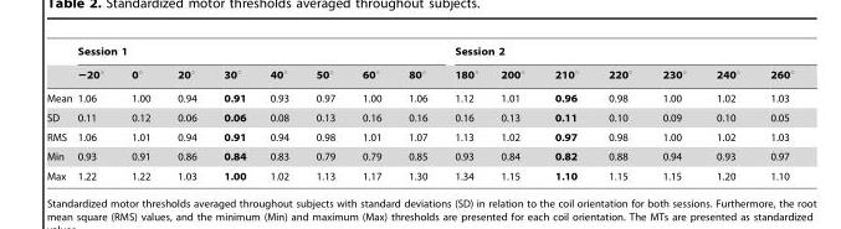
<table><thead><tr><td rowspan="2"></td><td colspan="8">Session 1</td><td colspan="7">Session 2</td></tr><tr><td>−20°</td><td>0°</td><td>20°</td><td>30°</td><td>40°</td><td>50°</td><td>60°</td><td>80°</td><td>180°</td><td>200°</td><td>210°</td><td>220°</td><td>230°</td><td>240°</td><td>260°</td></tr></thead><tbody><tr><td>Mean</td><td>1.06</td><td>1.00</td><td>0.94</td><td>0.91</td><td>0.93</td><td>0.97</td><td>1.00</td><td>1.06</td><td>1.12</td><td>1.01</td><td>0.96</td><td>0.98</td><td>1.00</td><td>1.02</td><td>1.03</td></tr><tr><td>SD</td><td>0.11</td><td>0.12</td><td>0.06</td><td>0.06</td><td>0.08</td><td>0.13</td><td>0.16</td><td>0.16</td><td>0.16</td><td>0.13</td><td>0.11</td><td>0.10</td><td>0.09</td><td>0.10</td><td>0.05</td></tr><tr><td>RMS</td><td>1.06</td><td>1.01</td><td>0.94</td><td>0.91</td><td>0.94</td><td>0.98</td><td>1.01</td><td>1.07</td><td>1.13</td><td>1.02</td><td>0.97</td><td>0.98</td><td>1.00</td><td>1.02</td><td>1.03</td></tr><tr><td>Min</td><td>0.93</td><td>0.91</td><td>0.86</td><td>0.84</td><td>0.83</td><td>0.79</td><td>0.79</td><td>0.85</td><td>0.93</td><td>0.84</td><td>0.82</td><td>0.88</td><td>0.94</td><td>0.93</td><td>0.97</td></tr><tr><td>Max</td><td>1.22</td><td>1.22</td><td>1.03</td><td>1.00</td><td>1.02</td><td>1.13</td><td>1.17</td><td>1.30</td><td>1.34</td><td>1.15</td><td>1.10</td><td>1.15</td><td>1.15</td><td>1.20</td><td>1.10</td></tr></tbody></table>